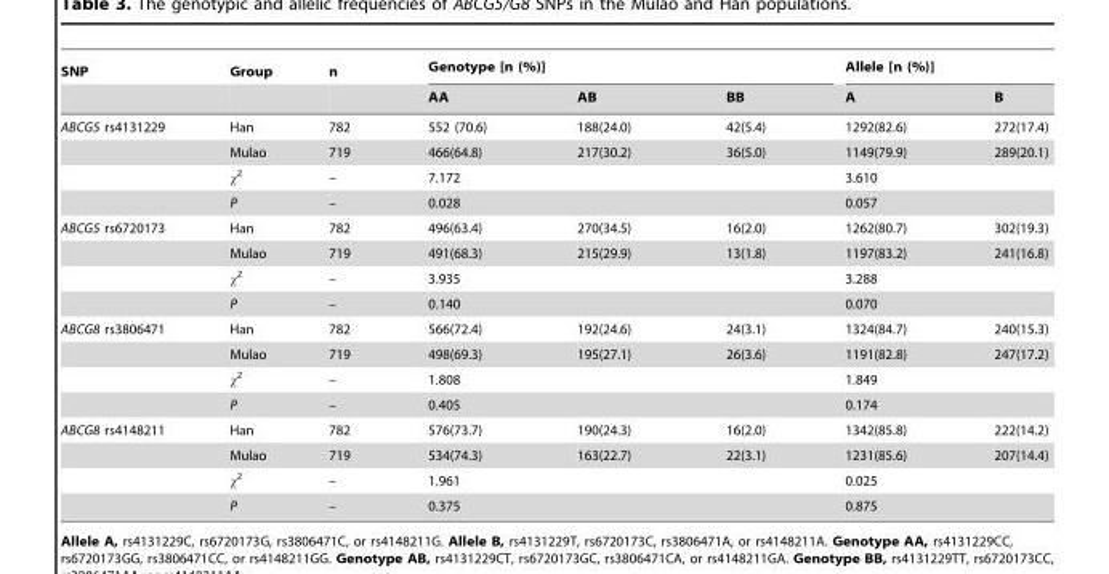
<table><thead><tr><td rowspan="2">SNP</td><td rowspan="2">Group</td><td rowspan="2">n</td><td colspan="3">Genotype [n (%)]</td><td colspan="2">Allele [n (%)]</td></tr><tr><td>AA</td><td>AB</td><td>BB</td><td>A</td><td>B</td></tr></thead><tbody><tr><td rowspan="4">ABCG5 rs4131229</td><td>Han</td><td>782</td><td>552 (70.6)</td><td>188(24.0)</td><td>42(5.4)</td><td>1292(82.6)</td><td>272(17.4)</td></tr><tr><td>Mulao</td><td>719</td><td>466(64.8)</td><td>217(30.2)</td><td>36(5.0)</td><td>1149(79.9)</td><td>289(20.1)</td></tr><tr><td>x2</td><td>–</td><td colspan="3">7.172</td><td colspan="2">3.610</td></tr><tr><td>P</td><td>–</td><td colspan="3">0.028</td><td colspan="2">0.057</td></tr><tr><td rowspan="4">ABCG5 rs6720173</td><td>Han</td><td>782</td><td>496(63.4)</td><td>270(34.5)</td><td>16(2.0)</td><td>1262(80.7)</td><td>302(19.3)</td></tr><tr><td>Mulao</td><td>719</td><td>491(68.3)</td><td>215(29.9)</td><td>13(1.8)</td><td>1197(83.2)</td><td>241(16.8)</td></tr><tr><td>x2</td><td>–</td><td colspan="3">3.935</td><td colspan="2">3.288</td></tr><tr><td>P</td><td>–</td><td colspan="3">0.140</td><td colspan="2">0.070</td></tr><tr><td rowspan="4">ABCG8 rs3806471</td><td>Han</td><td>782</td><td>566(72.4)</td><td>192(24.6)</td><td>24(3.1)</td><td>1324(84.7)</td><td>240(15.3)</td></tr><tr><td>Mulao</td><td>719</td><td>498(69.3)</td><td>195(27.1)</td><td>26(3.6)</td><td>1191(82.8)</td><td>247(17.2)</td></tr><tr><td>x2</td><td>–</td><td colspan="3">1.808</td><td colspan="2">1.849</td></tr><tr><td>P</td><td>–</td><td colspan="3">0.405</td><td colspan="2">0.174</td></tr><tr><td rowspan="4">ABCG8 rs4148211</td><td>Han</td><td>782</td><td>576(73.7)</td><td>190(24.3)</td><td>16(2.0)</td><td>1342(85.8)</td><td>222(14.2)</td></tr><tr><td>Mulao</td><td>719</td><td>534(74.3)</td><td>163(22.7)</td><td>22(3.1)</td><td>1231(85.6)</td><td>207(14.4)</td></tr><tr><td>x2</td><td>–</td><td colspan="3">1.961</td><td colspan="2">0.025</td></tr><tr><td>P</td><td>–</td><td colspan="3">0.375</td><td colspan="2">0.875</td></tr></tbody></table>